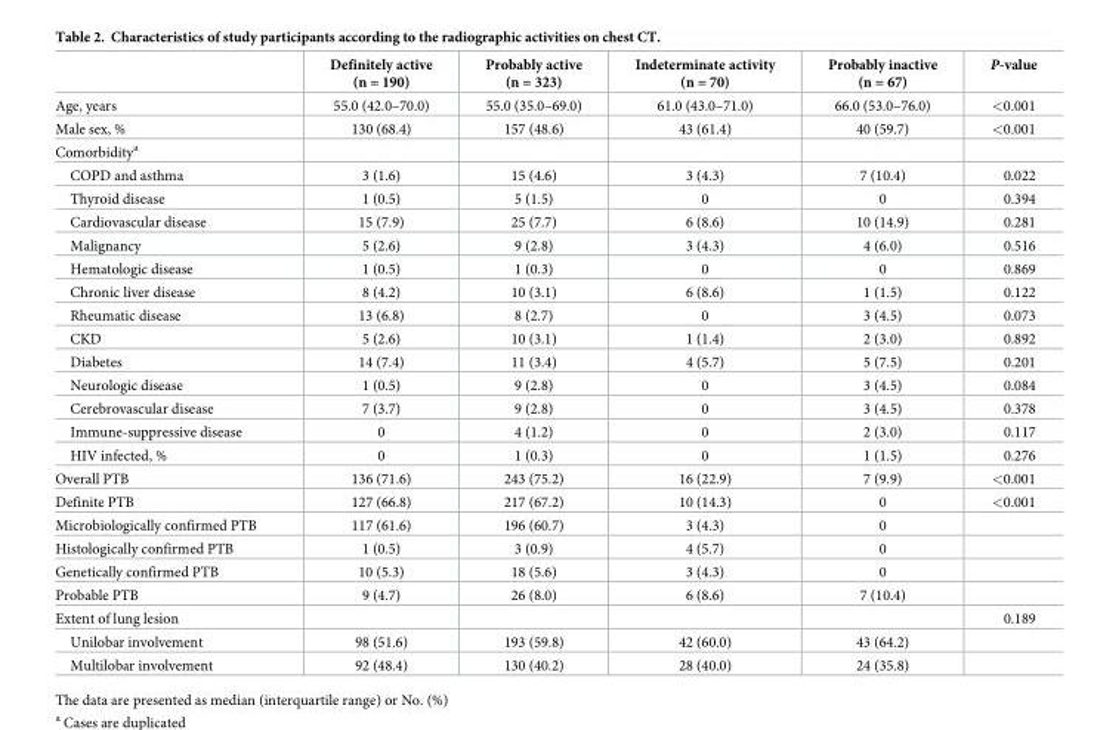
<table><thead><tr><td></td><td>Definitely active (n = 190)</td><td>Probably active (n = 323)</td><td>Indeterminate activity (n = 70)</td><td>Probably inactive (n = 67)</td><td>P-value</td></tr></thead><tbody><tr><td>Age, years</td><td>55.0 (42.0–70.0)</td><td>55.0 (35.0–69.0)</td><td>61.0 (43.0–71.0)</td><td>66.0 (53.0–76.0)</td><td>&lt;0.001</td></tr><tr><td>Male sex, %</td><td>130 (68.4)</td><td>157 (48.6)</td><td>43 (61.4)</td><td>40 (59.7)</td><td>&lt;0.001</td></tr><tr><td colspan="6">Comorbidity<sup>a</sup></td></tr><tr><td>COPD and asthma</td><td>3 (1.6)</td><td>15 (4.6)</td><td>3 (4.3)</td><td>7 (10.4)</td><td>0.022</td></tr><tr><td>Thyroid disease</td><td>1 (0.5)</td><td>5 (1.5)</td><td>0</td><td>0</td><td>0.394</td></tr><tr><td>Cardiovascular disease</td><td>15 (7.9)</td><td>25 (7.7)</td><td>6 (8.6)</td><td>10 (14.9)</td><td>0.281</td></tr><tr><td>Malignancy</td><td>5 (2.6)</td><td>9 (2.8)</td><td>3 (4.3)</td><td>4 (6.0)</td><td>0.516</td></tr><tr><td>Hematologic disease</td><td>1 (0.5)</td><td>1 (0.3)</td><td>0</td><td>0</td><td>0.869</td></tr><tr><td>Chronic liver disease</td><td>8 (4.2)</td><td>10 (3.1)</td><td>6 (8.6)</td><td>1 (1.5)</td><td>0.122</td></tr><tr><td>Rheumatic disease</td><td>13 (6.8)</td><td>8 (2.7)</td><td>0</td><td>3 (4.5)</td><td>0.073</td></tr><tr><td>CKD</td><td>5 (2.6)</td><td>10 (3.1)</td><td>1 (1.4)</td><td>2 (3.0)</td><td>0.892</td></tr><tr><td>Diabetes</td><td>14 (7.4)</td><td>11 (3.4)</td><td>4 (5.7)</td><td>5 (7.5)</td><td>0.201</td></tr><tr><td>Neurologic disease</td><td>1 (0.5)</td><td>9 (2.8)</td><td>0</td><td>3 (4.5)</td><td>0.084</td></tr><tr><td>Cerebrovascular disease</td><td>7 (3.7)</td><td>9 (2.8)</td><td>0</td><td>3 (4.5)</td><td>0.378</td></tr><tr><td>Immune-suppressive disease</td><td>0</td><td>4 (1.2)</td><td>0</td><td>2 (3.0)</td><td>0.117</td></tr><tr><td>HIV infected, %</td><td>0</td><td>1 (0.3)</td><td>0</td><td>1 (1.5)</td><td>0.276</td></tr><tr><td>Overall PTB</td><td>136 (71.6)</td><td>243 (75.2)</td><td>16 (22.9)</td><td>7 (9.9)</td><td>&lt;0.001</td></tr><tr><td>Definite PTB</td><td>127 (66.8)</td><td>217 (67.2)</td><td>10 (14.3)</td><td>0</td><td>&lt;0.001</td></tr><tr><td>Microbiologically confirmed PTB</td><td>117 (61.6)</td><td>196 (60.7)</td><td>3 (4.3)</td><td>0</td><td></td></tr><tr><td>Histologically confirmed PTB</td><td>1 (0.5)</td><td>3 (0.9)</td><td>4 (5.7)</td><td>0</td><td></td></tr><tr><td>Genetically confirmed PTB</td><td>10 (5.3)</td><td>18 (5.6)</td><td>3 (4.3)</td><td>0</td><td></td></tr><tr><td>Probable PTB</td><td>9 (4.7)</td><td>26 (8.0)</td><td>6 (8.6)</td><td>7 (10.4)</td><td></td></tr><tr><td>Extent of lung lesion</td><td></td><td></td><td></td><td></td><td>0.189</td></tr><tr><td>Unilobar involvement</td><td>98 (51.6)</td><td>193 (59.8)</td><td>42 (60.0)</td><td>43 (64.2)</td><td></td></tr><tr><td>Multilobar involvement</td><td>92 (48.4)</td><td>130 (40.2)</td><td>28 (40.0)</td><td>24 (35.8)</td><td></td></tr></tbody></table>